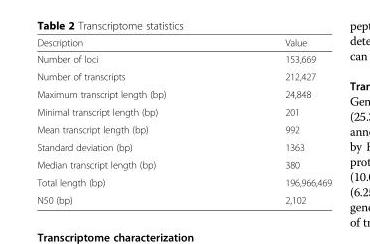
<table><thead><tr><td>Description</td><td>Value</td></tr></thead><tbody><tr><td>Number of loci</td><td>153,669</td></tr><tr><td>Number of transcripts</td><td>212,427</td></tr><tr><td>Maximum transcript length (bp)</td><td>24,848</td></tr><tr><td>Minimal transcript length (bp)</td><td>201</td></tr><tr><td>Mean transcript length (bp)</td><td>992</td></tr><tr><td>Standard deviation (bp)</td><td>1363</td></tr><tr><td>Median transcript length (bp)</td><td>380</td></tr><tr><td>Total length (bp)</td><td>196,966,469</td></tr><tr><td>N50 (bp)</td><td>2,102</td></tr></tbody></table>